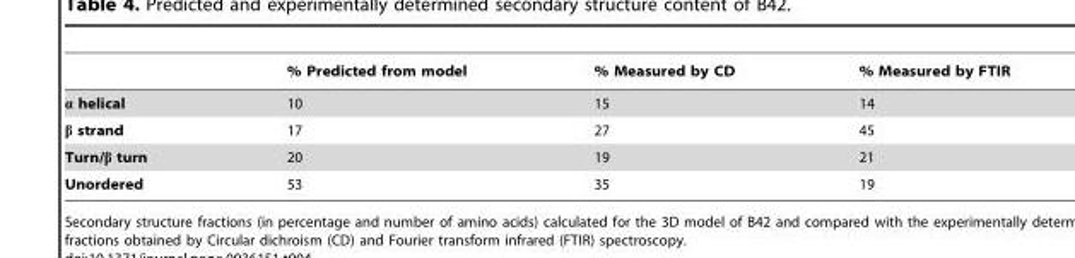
<table><thead><tr><td></td><td>% Predicted from model</td><td>% Measured by CD</td><td>% Measured by FTIR</td></tr></thead><tbody><tr><td>α helical</td><td>10</td><td>15</td><td>14</td></tr><tr><td>β strand</td><td>17</td><td>27</td><td>45</td></tr><tr><td>Turn/β turn</td><td>20</td><td>19</td><td>21</td></tr><tr><td>Unordered</td><td>53</td><td>35</td><td>19</td></tr></tbody></table>